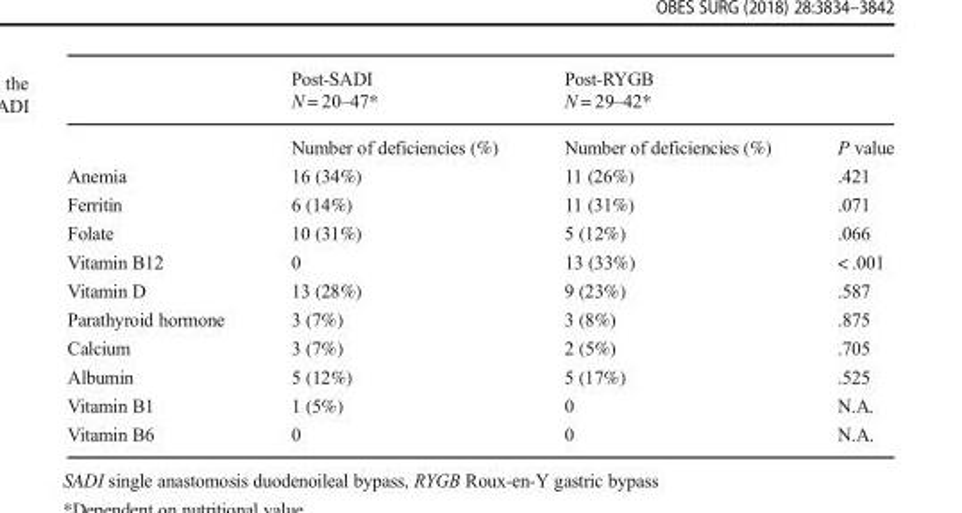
<table><thead><tr><td rowspan="2"></td><td rowspan="2">Post-SADI N = 20–47*</td><td rowspan="2">Post-RYGB N = 29–42*</td><td rowspan="2"></td></tr><tr></tr></thead><tbody><tr><td></td><td>Number of deficiencies (%)</td><td>Number of deficiencies (%)</td><td>P value</td></tr><tr><td>Anemia</td><td>16 (34%)</td><td>11 (26%)</td><td>.421</td></tr><tr><td>Ferritin</td><td>6 (14%)</td><td>11 (31%)</td><td>.071</td></tr><tr><td>Folate</td><td>10 (31%)</td><td>5 (12%)</td><td>.066</td></tr><tr><td>Vitamin B12</td><td>0</td><td>13 (33%)</td><td>&lt; .001</td></tr><tr><td>Vitamin D</td><td>13 (28%)</td><td>9 (23%)</td><td>.587</td></tr><tr><td>Parathyroid hormone</td><td>3 (7%)</td><td>3 (8%)</td><td>.875</td></tr><tr><td>Calcium</td><td>3 (7%)</td><td>2 (5%)</td><td>.705</td></tr><tr><td>Albumin</td><td>5 (12%)</td><td>5 (17%)</td><td>.525</td></tr><tr><td>Vitamin B1</td><td>1 (5%)</td><td>0</td><td>N.A.</td></tr><tr><td>Vitamin B6</td><td>0</td><td>0</td><td>N.A.</td></tr></tbody></table>